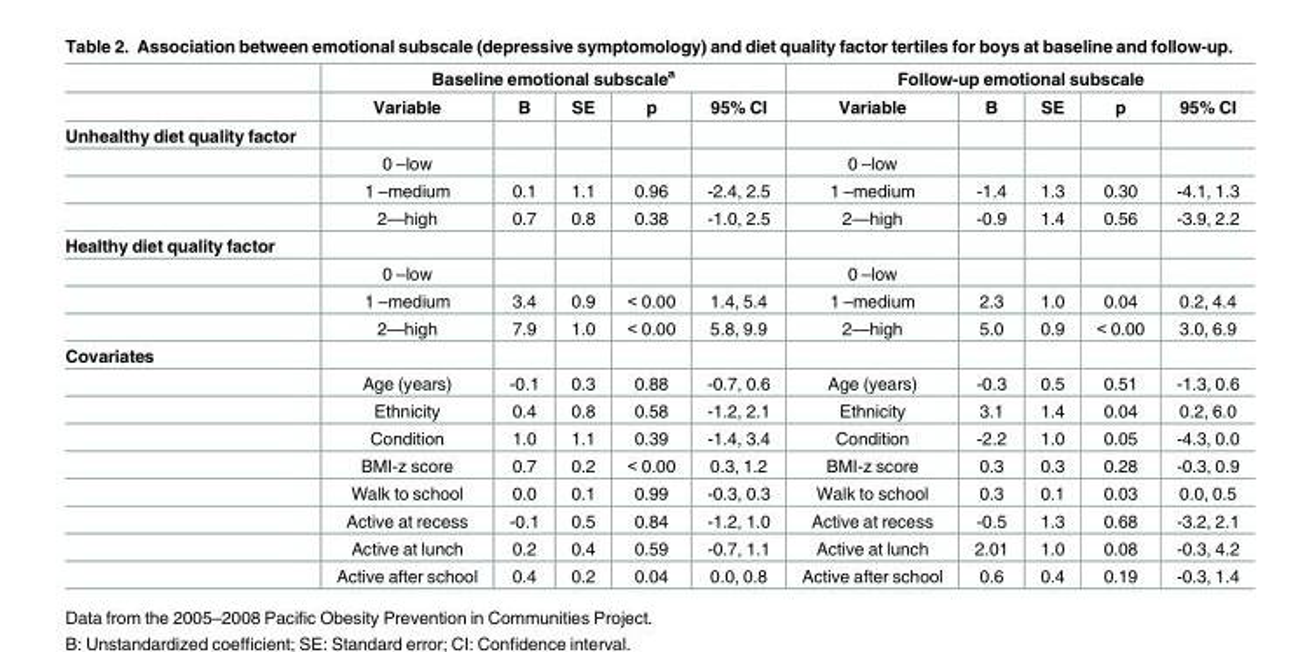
<table><thead><tr><td rowspan="2"></td><td colspan="5">Baseline emotional subscale<sup>a</sup></td><td colspan="5">Follow-up emotional subscale</td></tr><tr><td>Variable</td><td>B</td><td>SE</td><td>p</td><td>95% CI</td><td>Variable</td><td>B</td><td>SE</td><td>p</td><td>95% CI</td></tr></thead><tbody><tr><td colspan="11">Unhealthy diet quality factor</td></tr><tr><td></td><td>0 –low</td><td></td><td></td><td></td><td></td><td>0 –low</td><td></td><td></td><td></td><td></td></tr><tr><td></td><td>1 –medium</td><td>0.1</td><td>1.1</td><td>0.96</td><td>-2.4, 2.5</td><td>1 –medium</td><td>-1.4</td><td>1.3</td><td>0.30</td><td>-4.1, 1.3</td></tr><tr><td></td><td>2—high</td><td>0.7</td><td>0.8</td><td>0.38</td><td>-1.0, 2.5</td><td>2—high</td><td>-0.9</td><td>1.4</td><td>0.56</td><td>-3.9, 2.2</td></tr><tr><td colspan="11">Healthy diet quality factor</td></tr><tr><td></td><td>0 –low</td><td></td><td></td><td></td><td></td><td>0 –low</td><td></td><td></td><td></td><td></td></tr><tr><td></td><td>1 –medium</td><td>3.4</td><td>0.9</td><td>&lt; 0.00</td><td>1.4, 5.4</td><td>1 –medium</td><td>2.3</td><td>1.0</td><td>0.04</td><td>0.2, 4.4</td></tr><tr><td></td><td>2—high</td><td>7.9</td><td>1.0</td><td>&lt; 0.00</td><td>5.8, 9.9</td><td>2—high</td><td>5.0</td><td>0.9</td><td>&lt; 0.00</td><td>3.0, 6.9</td></tr><tr><td colspan="11">Covariates</td></tr><tr><td></td><td>Age (years)</td><td>-0.1</td><td>0.3</td><td>0.88</td><td>-0.7, 0.6</td><td>Age (years)</td><td>-0.3</td><td>0.5</td><td>0.51</td><td>-1.3, 0.6</td></tr><tr><td></td><td>Ethnicity</td><td>0.4</td><td>0.8</td><td>0.58</td><td>-1.2, 2.1</td><td>Ethnicity</td><td>3.1</td><td>1.4</td><td>0.04</td><td>0.2, 6.0</td></tr><tr><td></td><td>Condition</td><td>1.0</td><td>1.1</td><td>0.39</td><td>-1.4, 3.4</td><td>Condition</td><td>-2.2</td><td>1.0</td><td>0.05</td><td>-4.3, 0.0</td></tr><tr><td></td><td>BMI-z score</td><td>0.7</td><td>0.2</td><td>&lt; 0.00</td><td>0.3, 1.2</td><td>BMI-z score</td><td>0.3</td><td>0.3</td><td>0.28</td><td>-0.3, 0.9</td></tr><tr><td></td><td>Walk to school</td><td>0.0</td><td>0.1</td><td>0.99</td><td>-0.3, 0.3</td><td>Walk to school</td><td>0.3</td><td>0.1</td><td>0.03</td><td>0.0, 0.5</td></tr><tr><td></td><td>Active at recess</td><td>-0.1</td><td>0.5</td><td>0.84</td><td>-1.2, 1.0</td><td>Active at recess</td><td>-0.5</td><td>1.3</td><td>0.68</td><td>-3.2, 2.1</td></tr><tr><td></td><td>Active at lunch</td><td>0.2</td><td>0.4</td><td>0.59</td><td>-0.7, 1.1</td><td>Active at lunch</td><td>2.01</td><td>1.0</td><td>0.08</td><td>-0.3, 4.2</td></tr><tr><td></td><td>Active after school</td><td>0.4</td><td>0.2</td><td>0.04</td><td>0.0, 0.8</td><td>Active after school</td><td>0.6</td><td>0.4</td><td>0.19</td><td>-0.3, 1.4</td></tr></tbody></table>